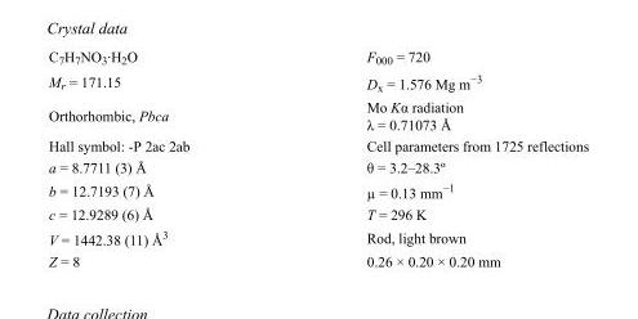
<table><tbody><tr><td>C<sub>7</sub>H<sub>7</sub>NO<sub>3</sub>·H<sub>2</sub>O</td><td>F000 = 720</td></tr><tr><td>M<sub>r</sub> = 171.15</td><td>D<sub>x</sub> = 1.576 Mg m<sup>−3</sup></td></tr><tr><td>Orthorhombic, Pbca</td><td>Mo Kα radiation λ = 0.71073 Å</td></tr><tr><td>Hall symbol: -P 2ac 2ab</td><td>Cell parameters from 1725 reflections</td></tr><tr><td>a = 8.7711 (3) Å</td><td>θ = 3.2–28.3º</td></tr><tr><td>b = 12.7193 (7) Å</td><td>µ = 0.13 mm<sup>−1</sup></td></tr><tr><td>c = 12.9289 (6) Å</td><td>T = 296 K</td></tr><tr><td>V = 1442.38 (11) Å<sup>3</sup></td><td>Rod, light brown</td></tr><tr><td>Z = 8</td><td>0.26 × 0.20 × 0.20 mm</td></tr></tbody></table>